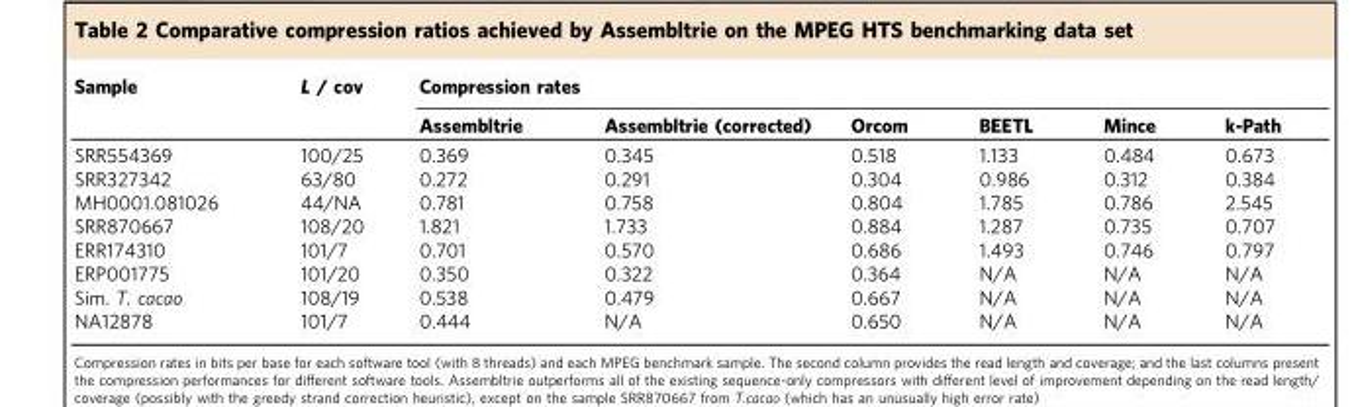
<table><thead><tr><td rowspan="2">Sample</td><td rowspan="2">L / cov</td><td colspan="6">Compression rates</td></tr><tr><td>Assembltrie</td><td>Assembltrie (corrected)</td><td>Orcom</td><td>BEETL</td><td>Mince</td><td>k-Path</td></tr></thead><tbody><tr><td>SRR554369</td><td>100/25</td><td>0.369</td><td>0.345</td><td>0.518</td><td>1.133</td><td>0.484</td><td>0.673</td></tr><tr><td>SRR327342</td><td>63/80</td><td>0.272</td><td>0.291</td><td>0.304</td><td>0.986</td><td>0.312</td><td>0.384</td></tr><tr><td>MH0001.081026</td><td>44/NA</td><td>0.781</td><td>0.758</td><td>0.804</td><td>1.785</td><td>0.786</td><td>2.545</td></tr><tr><td>SRR870667</td><td>108/20</td><td>1.821</td><td>1.733</td><td>0.884</td><td>1.287</td><td>0.735</td><td>0.707</td></tr><tr><td>ERR174310</td><td>101/7</td><td>0.701</td><td>0.570</td><td>0.686</td><td>1.493</td><td>0.746</td><td>0.797</td></tr><tr><td>ERP001775</td><td>101/20</td><td>0.350</td><td>0.322</td><td>0.364</td><td>N/A</td><td>N/A</td><td>N/A</td></tr><tr><td>Sim. T. cacao</td><td>108/19</td><td>0.538</td><td>0.479</td><td>0.667</td><td>N/A</td><td>N/A</td><td>N/A</td></tr><tr><td>NA12878</td><td>101/7</td><td>0.444</td><td>N/A</td><td>0.650</td><td>N/A</td><td>N/A</td><td>N/A</td></tr></tbody></table>